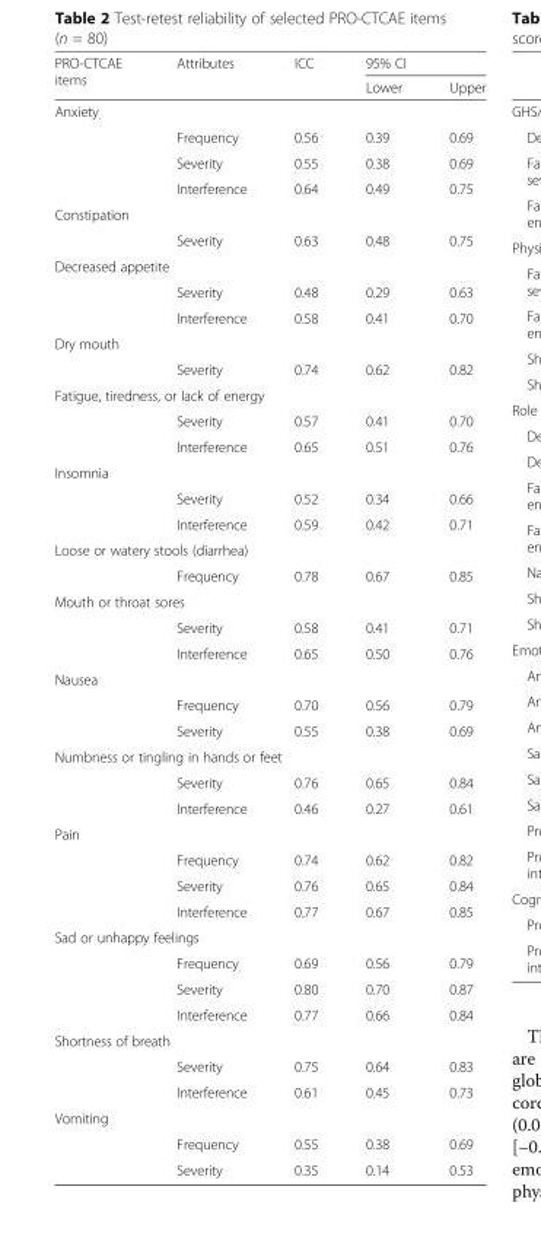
<table><thead><tr><td rowspan="2">PRO-CTCAE items</td><td rowspan="2">Attributes</td><td rowspan="2">ICC</td><td colspan="2">95% CI</td></tr><tr><td>Lower</td><td>Upper</td></tr></thead><tbody><tr><td colspan="5">Anxiety</td></tr><tr><td></td><td>Frequency</td><td>0.56</td><td>0.39</td><td>0.69</td></tr><tr><td></td><td>Severity</td><td>0.55</td><td>0.38</td><td>0.69</td></tr><tr><td></td><td>Interference</td><td>0.64</td><td>0.49</td><td>0.75</td></tr><tr><td colspan="5">Constipation</td></tr><tr><td></td><td>Severity</td><td>0.63</td><td>0.48</td><td>0.75</td></tr><tr><td colspan="5">Decreased appetite</td></tr><tr><td></td><td>Severity</td><td>0.48</td><td>0.29</td><td>0.63</td></tr><tr><td></td><td>Interference</td><td>0.58</td><td>0.41</td><td>0.70</td></tr><tr><td colspan="5">Dry mouth</td></tr><tr><td></td><td>Severity</td><td>0.74</td><td>0.62</td><td>0.82</td></tr><tr><td colspan="5">Fatigue, tiredness, or lack of energy</td></tr><tr><td></td><td>Severity</td><td>0.57</td><td>0.41</td><td>0.70</td></tr><tr><td></td><td>Interference</td><td>0.65</td><td>0.51</td><td>0.76</td></tr><tr><td colspan="5">Insomnia</td></tr><tr><td></td><td>Severity</td><td>0.52</td><td>0.34</td><td>0.66</td></tr><tr><td></td><td>Interference</td><td>0.59</td><td>0.42</td><td>0.71</td></tr><tr><td colspan="5">Loose or watery stools (diarrhea)</td></tr><tr><td></td><td>Frequency</td><td>0.78</td><td>0.67</td><td>0.85</td></tr><tr><td colspan="5">Mouth or throat sores</td></tr><tr><td></td><td>Severity</td><td>0.58</td><td>0.41</td><td>0.71</td></tr><tr><td></td><td>Interference</td><td>0.65</td><td>0.50</td><td>0.76</td></tr><tr><td colspan="5">Nausea</td></tr><tr><td></td><td>Frequency</td><td>0.70</td><td>0.56</td><td>0.79</td></tr><tr><td></td><td>Severity</td><td>0.55</td><td>0.38</td><td>0.69</td></tr><tr><td colspan="5">Numbness or tingling in hands or feet</td></tr><tr><td></td><td>Severity</td><td>0.76</td><td>0.65</td><td>0.84</td></tr><tr><td></td><td>Interference</td><td>0.46</td><td>0.27</td><td>0.61</td></tr><tr><td colspan="5">Pain</td></tr><tr><td></td><td>Frequency</td><td>0.74</td><td>0.62</td><td>0.82</td></tr><tr><td></td><td>Severity</td><td>0.76</td><td>0.65</td><td>0.84</td></tr><tr><td></td><td>Interference</td><td>0.77</td><td>0.67</td><td>0.85</td></tr><tr><td colspan="5">Sad or unhappy feelings</td></tr><tr><td></td><td>Frequency</td><td>0.69</td><td>0.56</td><td>0.79</td></tr><tr><td></td><td>Severity</td><td>0.80</td><td>0.70</td><td>0.87</td></tr><tr><td></td><td>Interference</td><td>0.77</td><td>0.66</td><td>0.84</td></tr><tr><td colspan="5">Shortness of breath</td></tr><tr><td></td><td>Severity</td><td>0.75</td><td>0.64</td><td>0.83</td></tr><tr><td></td><td>Interference</td><td>0.61</td><td>0.45</td><td>0.73</td></tr><tr><td colspan="5">Vomiting</td></tr><tr><td></td><td>Frequency</td><td>0.55</td><td>0.38</td><td>0.69</td></tr><tr><td></td><td>Severity</td><td>0.35</td><td>0.14</td><td>0.53</td></tr></tbody></table>